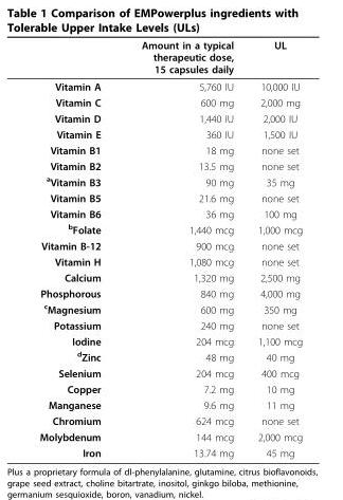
<table><thead><tr><td></td><td>Amount in a typical therapeutic dose, 15 capsules daily</td><td>UL</td></tr></thead><tbody><tr><td>Vitamin A</td><td>5,760 IU</td><td>10,000 IU</td></tr><tr><td>Vitamin C</td><td>600 mg</td><td>2,000 mg</td></tr><tr><td>Vitamin D</td><td>1,440 IU</td><td>2,000 IU</td></tr><tr><td>Vitamin E</td><td>360 IU</td><td>1,500 IU</td></tr><tr><td>Vitamin B1</td><td>18 mg</td><td>none set</td></tr><tr><td>Vitamin B2</td><td>13.5 mg</td><td>none set</td></tr><tr><td><sup>a</sup>Vitamin B3</td><td>90 mg</td><td>35 mg</td></tr><tr><td>Vitamin B5</td><td>21.6 mg</td><td>none set</td></tr><tr><td>Vitamin B6</td><td>36 mg</td><td>100 mg</td></tr><tr><td><sup>b</sup>Folate</td><td>1,440 mcg</td><td>1,000 mcg</td></tr><tr><td>Vitamin B-12</td><td>900 mcg</td><td>none set</td></tr><tr><td>Vitamin H</td><td>1,080 mcg</td><td>none set</td></tr><tr><td>Calcium</td><td>1,320 mg</td><td>2,500 mg</td></tr><tr><td>Phosphorous</td><td>840 mg</td><td>4,000 mg</td></tr><tr><td><sup>c</sup>Magnesium</td><td>600 mg</td><td>350 mg</td></tr><tr><td>Potassium</td><td>240 mg</td><td>none set</td></tr><tr><td>Iodine</td><td>204 mcg</td><td>1,100 mcg</td></tr><tr><td><sup>d</sup>Zinc</td><td>48 mg</td><td>40 mg</td></tr><tr><td>Selenium</td><td>204 mcg</td><td>400 mcg</td></tr><tr><td>Copper</td><td>7.2 mg</td><td>10 mg</td></tr><tr><td>Manganese</td><td>9.6 mg</td><td>11 mg</td></tr><tr><td>Chromium</td><td>624 mcg</td><td>none set</td></tr><tr><td>Molybdenum</td><td>144 mcg</td><td>2,000 mcg</td></tr><tr><td>Iron</td><td>13.74 mg</td><td>45 mg</td></tr></tbody></table>